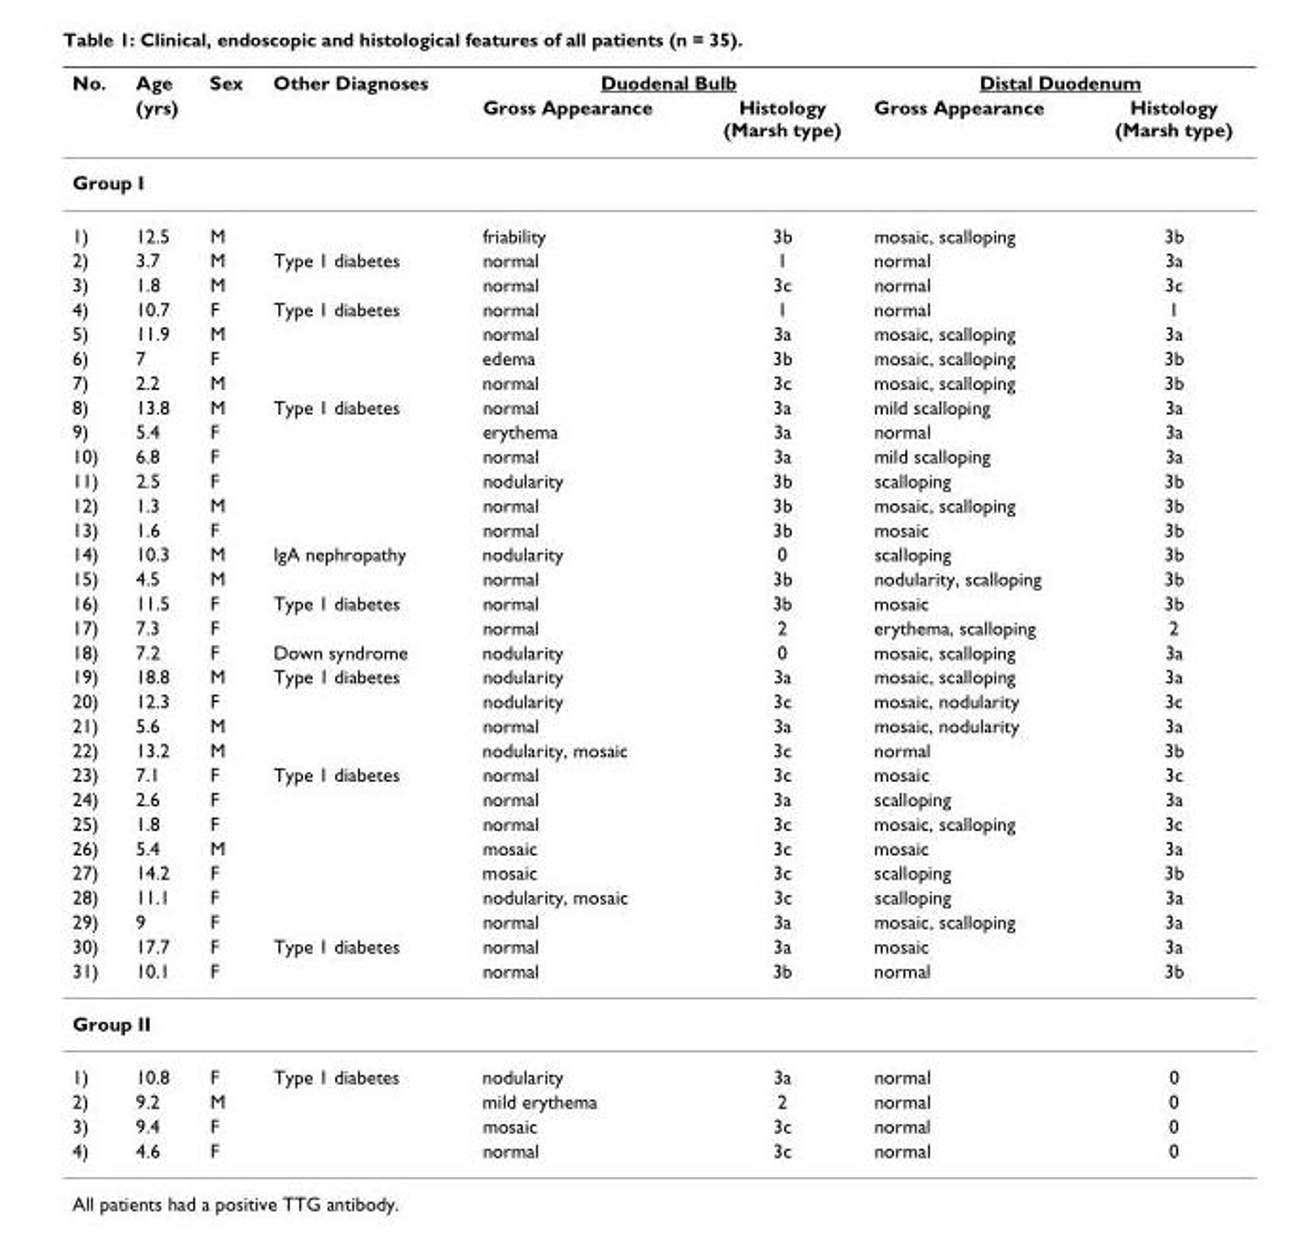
<table><thead><tr><td rowspan="2">No.</td><td rowspan="2">Age (yrs)</td><td rowspan="2">Sex</td><td rowspan="2">Other Diagnoses</td><td colspan="2">Duodenal Bulb</td><td colspan="2">Distal Duodenum</td></tr><tr><td>Gross Appearance</td><td>Histology (Marsh type)</td><td>Gross Appearance</td><td>Histology (Marsh type)</td></tr></thead><tbody><tr><td colspan="8">Group I</td></tr><tr><td>1)</td><td>12.5</td><td>M</td><td></td><td>friability</td><td>3b</td><td>mosaic, scalloping</td><td>3b</td></tr><tr><td>2)</td><td>3.7</td><td>M</td><td>Type 1 diabetes</td><td>normal</td><td>1</td><td>normal</td><td>3a</td></tr><tr><td>3)</td><td>1.8</td><td>M</td><td></td><td>normal</td><td>3c</td><td>normal</td><td>3c</td></tr><tr><td>4)</td><td>10.7</td><td>F</td><td>Type 1 diabetes</td><td>normal</td><td>1</td><td>normal</td><td>1</td></tr><tr><td>5)</td><td>11.9</td><td>M</td><td></td><td>normal</td><td>3a</td><td>mosaic, scalloping</td><td>3a</td></tr><tr><td>6)</td><td>7</td><td>F</td><td></td><td>edema</td><td>3b</td><td>mosaic, scalloping</td><td>3b</td></tr><tr><td>7)</td><td>2.2</td><td>M</td><td></td><td>normal</td><td>3c</td><td>mosaic, scalloping</td><td>3b</td></tr><tr><td>8)</td><td>13.8</td><td>M</td><td>Type 1 diabetes</td><td>normal</td><td>3a</td><td>mild scalloping</td><td>3a</td></tr><tr><td>9)</td><td>5.4</td><td>F</td><td></td><td>erythema</td><td>3a</td><td>normal</td><td>3a</td></tr><tr><td>10)</td><td>6.8</td><td>F</td><td></td><td>normal</td><td>3a</td><td>mild scalloping</td><td>3a</td></tr><tr><td>11)</td><td>2.5</td><td>F</td><td></td><td>nodularity</td><td>3b</td><td>scalloping</td><td>3b</td></tr><tr><td>12)</td><td>1.3</td><td>M</td><td></td><td>normal</td><td>3b</td><td>mosaic, scalloping</td><td>3b</td></tr><tr><td>13)</td><td>1.6</td><td>F</td><td></td><td>normal</td><td>3b</td><td>mosaic</td><td>3b</td></tr><tr><td>14)</td><td>10.3</td><td>M</td><td>IgA nephropathy</td><td>nodularity</td><td>0</td><td>scalloping</td><td>3b</td></tr><tr><td>15)</td><td>4.5</td><td>M</td><td></td><td>normal</td><td>3b</td><td>nodularity, scalloping</td><td>3b</td></tr><tr><td>16)</td><td>11.5</td><td>F</td><td>Type 1 diabetes</td><td>normal</td><td>3b</td><td>mosaic</td><td>3b</td></tr><tr><td>17)</td><td>7.3</td><td>F</td><td></td><td>normal</td><td>2</td><td>erythema, scalloping</td><td>2</td></tr><tr><td>18)</td><td>7.2</td><td>F</td><td>Down syndrome</td><td>nodularity</td><td>0</td><td>mosaic, scalloping</td><td>3a</td></tr><tr><td>19)</td><td>18.8</td><td>M</td><td>Type 1 diabetes</td><td>nodularity</td><td>3a</td><td>mosaic, scalloping</td><td>3a</td></tr><tr><td>20)</td><td>12.3</td><td>F</td><td></td><td>nodularity</td><td>3c</td><td>mosaic, nodularity</td><td>3c</td></tr><tr><td>21)</td><td>5.6</td><td>M</td><td></td><td>normal</td><td>3a</td><td>mosaic, nodularity</td><td>3a</td></tr><tr><td>22)</td><td>13.2</td><td>M</td><td></td><td>nodularity, mosaic</td><td>3c</td><td>normal</td><td>3b</td></tr><tr><td>23)</td><td>7.1</td><td>F</td><td>Type 1 diabetes</td><td>normal</td><td>3c</td><td>mosaic</td><td>3c</td></tr><tr><td>24)</td><td>2.6</td><td>F</td><td></td><td>normal</td><td>3a</td><td>scalloping</td><td>3a</td></tr><tr><td>25)</td><td>1.8</td><td>F</td><td></td><td>normal</td><td>3c</td><td>mosaic, scalloping</td><td>3c</td></tr><tr><td>26)</td><td>5.4</td><td>M</td><td></td><td>mosaic</td><td>3c</td><td>mosaic</td><td>3a</td></tr><tr><td>27)</td><td>14.2</td><td>F</td><td></td><td>mosaic</td><td>3c</td><td>scalloping</td><td>3b</td></tr><tr><td>28)</td><td>11.1</td><td>F</td><td></td><td>nodularity, mosaic</td><td>3c</td><td>scalloping</td><td>3a</td></tr><tr><td>29)</td><td>9</td><td>F</td><td></td><td>normal</td><td>3a</td><td>mosaic, scalloping</td><td>3a</td></tr><tr><td>30)</td><td>17.7</td><td>F</td><td>Type 1 diabetes</td><td>normal</td><td>3a</td><td>mosaic</td><td>3a</td></tr><tr><td>31)</td><td>10.1</td><td>F</td><td></td><td>normal</td><td>3b</td><td>normal</td><td>3b</td></tr><tr><td colspan="8">Group II</td></tr><tr><td>1)</td><td>10.8</td><td>F</td><td>Type 1 diabetes</td><td>nodularity</td><td>3a</td><td>normal</td><td>0</td></tr><tr><td>2)</td><td>9.2</td><td>M</td><td></td><td>mild erythema</td><td>2</td><td>normal</td><td>0</td></tr><tr><td>3)</td><td>9.4</td><td>F</td><td></td><td>mosaic</td><td>3c</td><td>normal</td><td>0</td></tr><tr><td>4)</td><td>4.6</td><td>F</td><td></td><td>normal</td><td>3c</td><td>normal</td><td>0</td></tr></tbody></table>